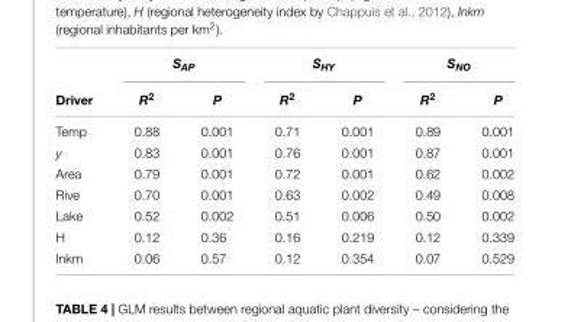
<table><thead><tr><td rowspan="2">Driver</td><td colspan="2">S<sub>AP</sub></td><td colspan="2">S<sub>HY</sub></td><td colspan="2">S<sub>NO</sub></td></tr><tr><td>R<sup>2</sup></td><td>P</td><td>R<sup>2</sup></td><td>P</td><td>R<sup>2</sup></td><td>P</td></tr></thead><tbody><tr><td>Temp</td><td>0.88</td><td>0.001</td><td>0.71</td><td>0.001</td><td>0.89</td><td>0.001</td></tr><tr><td>y</td><td>0.83</td><td>0.001</td><td>0.76</td><td>0.001</td><td>0.87</td><td>0.001</td></tr><tr><td>Area</td><td>0.79</td><td>0.001</td><td>0.72</td><td>0.001</td><td>0.62</td><td>0.002</td></tr><tr><td>Rive</td><td>0.70</td><td>0.001</td><td>0.63</td><td>0.002</td><td>0.49</td><td>0.008</td></tr><tr><td>Lake</td><td>0.52</td><td>0.002</td><td>0.51</td><td>0.006</td><td>0.50</td><td>0.002</td></tr><tr><td>H</td><td>0.12</td><td>0.36</td><td>0.16</td><td>0.219</td><td>0.12</td><td>0.339</td></tr><tr><td>Inkm</td><td>0.06</td><td>0.57</td><td>0.12</td><td>0.354</td><td>0.07</td><td>0.529</td></tr></tbody></table>